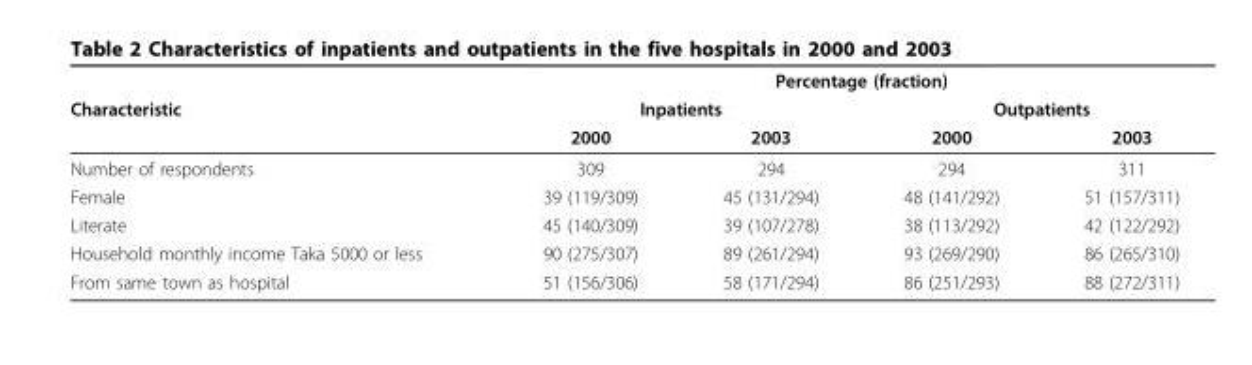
<table><thead><tr><td rowspan="3">Characteristic</td><td colspan="4">Percentage (fraction)</td></tr><tr><td colspan="2">Inpatients</td><td colspan="2">Outpatients</td></tr><tr><td>2000</td><td>2003</td><td>2000</td><td>2003</td></tr></thead><tbody><tr><td>Number of respondents</td><td>309</td><td>294</td><td>294</td><td>311</td></tr><tr><td>Female</td><td>39 (119/309)</td><td>45 (131/294)</td><td>48 (141/292)</td><td>51 (157/311)</td></tr><tr><td>Literate</td><td>45 (140/309)</td><td>39 (107/278)</td><td>38 (113/292)</td><td>42 (122/292)</td></tr><tr><td>Household monthly income Taka 5000 or less</td><td>90 (275/307)</td><td>89 (261/294)</td><td>93 (269/290)</td><td>86 (265/310)</td></tr><tr><td>From same town as hospital</td><td>51 (156/306)</td><td>58 (171/294)</td><td>86 (251/293)</td><td>88 (272/311)</td></tr></tbody></table>